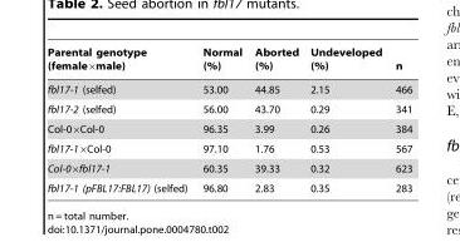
<table><thead><tr><td>Parental genotype (female×male)</td><td>Normal (%)</td><td>Aborted (%)</td><td>Undeveloped (%)</td><td>n</td></tr></thead><tbody><tr><td>fbl17-1 (selfed)</td><td>53.00</td><td>44.85</td><td>2.15</td><td>466</td></tr><tr><td>fbl17-2 (selfed)</td><td>56.00</td><td>43.70</td><td>0.29</td><td>341</td></tr><tr><td>Col-0×Col-0</td><td>96.35</td><td>3.99</td><td>0.26</td><td>384</td></tr><tr><td>fbl17-1×Col-0</td><td>97.10</td><td>1.76</td><td>0.53</td><td>567</td></tr><tr><td>Col-0×fbl17-1</td><td>60.35</td><td>39.33</td><td>0.32</td><td>623</td></tr><tr><td>fbl17-1 (pFBL17:FBL17) (selfed)</td><td>96.80</td><td>2.83</td><td>0.35</td><td>283</td></tr></tbody></table>